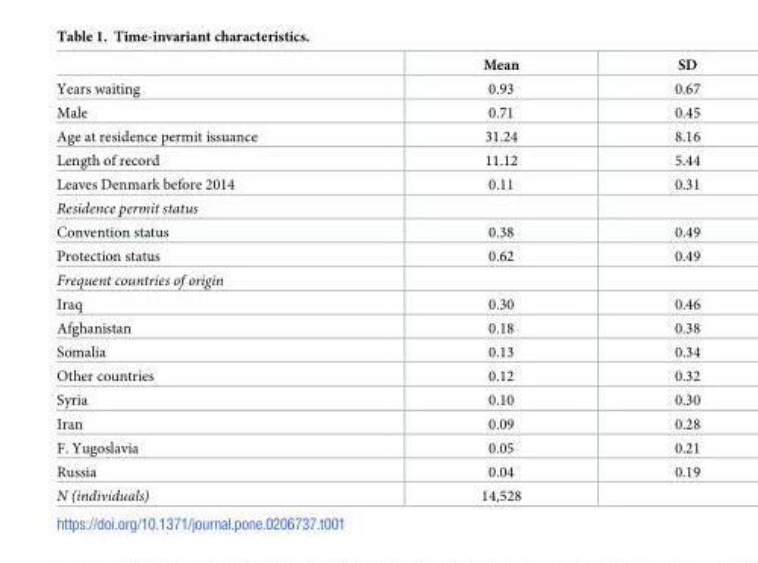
<table><thead><tr><td></td><td>Mean</td><td>SD</td></tr></thead><tbody><tr><td>Years waiting</td><td>0.93</td><td>0.67</td></tr><tr><td>Male</td><td>0.71</td><td>0.45</td></tr><tr><td>Age at residence permit issuance</td><td>31.24</td><td>8.16</td></tr><tr><td>Length of record</td><td>11.12</td><td>5.44</td></tr><tr><td>Leaves Denmark before 2014</td><td>0.11</td><td>0.31</td></tr><tr><td colspan="3">Residence permit status</td></tr><tr><td>Convention status</td><td>0.38</td><td>0.49</td></tr><tr><td>Protection status</td><td>0.62</td><td>0.49</td></tr><tr><td colspan="3">Frequent countries of origin</td></tr><tr><td>Iraq</td><td>0.30</td><td>0.46</td></tr><tr><td>Afghanistan</td><td>0.18</td><td>0.38</td></tr><tr><td>Somalia</td><td>0.13</td><td>0.34</td></tr><tr><td>Other countries</td><td>0.12</td><td>0.32</td></tr><tr><td>Syria</td><td>0.10</td><td>0.30</td></tr><tr><td>Iran</td><td>0.09</td><td>0.28</td></tr><tr><td>F. Yugoslavia</td><td>0.05</td><td>0.21</td></tr><tr><td>Russia</td><td>0.04</td><td>0.19</td></tr><tr><td>N (individuals)</td><td>14,528</td><td></td></tr></tbody></table>